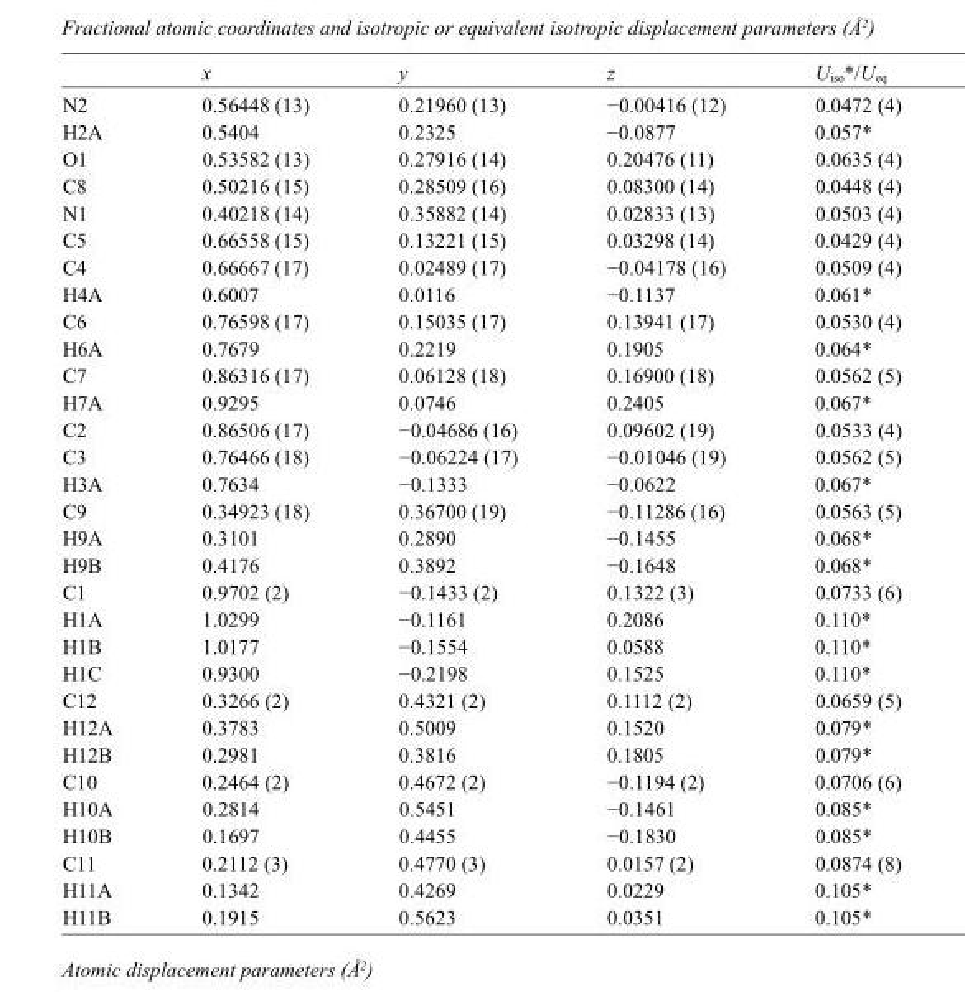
<table><thead><tr><td></td><td>x</td><td>y</td><td>z</td><td>U<sub>iso</sub>*/U<sub>eq</sub></td></tr></thead><tbody><tr><td>N2</td><td>0.56448 (13)</td><td>0.21960 (13)</td><td>−0.00416 (12)</td><td>0.0472 (4)</td></tr><tr><td>H2A</td><td>0.5404</td><td>0.2325</td><td>−0.0877</td><td>0.057*</td></tr><tr><td>O1</td><td>0.53582 (13)</td><td>0.27916 (14)</td><td>0.20476 (11)</td><td>0.0635 (4)</td></tr><tr><td>C8</td><td>0.50216 (15)</td><td>0.28509 (16)</td><td>0.08300 (14)</td><td>0.0448 (4)</td></tr><tr><td>N1</td><td>0.40218 (14)</td><td>0.35882 (14)</td><td>0.02833 (13)</td><td>0.0503 (4)</td></tr><tr><td>C5</td><td>0.66558 (15)</td><td>0.13221 (15)</td><td>0.03298 (14)</td><td>0.0429 (4)</td></tr><tr><td>C4</td><td>0.66667 (17)</td><td>0.02489 (17)</td><td>−0.04178 (16)</td><td>0.0509 (4)</td></tr><tr><td>H4A</td><td>0.6007</td><td>0.0116</td><td>−0.1137</td><td>0.061*</td></tr><tr><td>C6</td><td>0.76598 (17)</td><td>0.15035 (17)</td><td>0.13941 (17)</td><td>0.0530 (4)</td></tr><tr><td>H6A</td><td>0.7679</td><td>0.2219</td><td>0.1905</td><td>0.064*</td></tr><tr><td>C7</td><td>0.86316 (17)</td><td>0.06128 (18)</td><td>0.16900 (18)</td><td>0.0562 (5)</td></tr><tr><td>H7A</td><td>0.9295</td><td>0.0746</td><td>0.2405</td><td>0.067*</td></tr><tr><td>C2</td><td>0.86506 (17)</td><td>−0.04686 (16)</td><td>0.09602 (19)</td><td>0.0533 (4)</td></tr><tr><td>C3</td><td>0.76466 (18)</td><td>−0.06224 (17)</td><td>−0.01046 (19)</td><td>0.0562 (5)</td></tr><tr><td>H3A</td><td>0.7634</td><td>−0.1333</td><td>−0.0622</td><td>0.067*</td></tr><tr><td>C9</td><td>0.34923 (18)</td><td>0.36700 (19)</td><td>−0.11286 (16)</td><td>0.0563 (5)</td></tr><tr><td>H9A</td><td>0.3101</td><td>0.2890</td><td>−0.1455</td><td>0.068*</td></tr><tr><td>H9B</td><td>0.4176</td><td>0.3892</td><td>−0.1648</td><td>0.068*</td></tr><tr><td>C1</td><td>0.9702 (2)</td><td>−0.1433 (2)</td><td>0.1322 (3)</td><td>0.0733 (6)</td></tr><tr><td>H1A</td><td>1.0299</td><td>−0.1161</td><td>0.2086</td><td>0.110*</td></tr><tr><td>H1B</td><td>1.0177</td><td>−0.1554</td><td>0.0588</td><td>0.110*</td></tr><tr><td>H1C</td><td>0.9300</td><td>−0.2198</td><td>0.1525</td><td>0.110*</td></tr><tr><td>C12</td><td>0.3266 (2)</td><td>0.4321 (2)</td><td>0.1112 (2)</td><td>0.0659 (5)</td></tr><tr><td>H12A</td><td>0.3783</td><td>0.5009</td><td>0.1520</td><td>0.079*</td></tr><tr><td>H12B</td><td>0.2981</td><td>0.3816</td><td>0.1805</td><td>0.079*</td></tr><tr><td>C10</td><td>0.2464 (2)</td><td>0.4672 (2)</td><td>−0.1194 (2)</td><td>0.0706 (6)</td></tr><tr><td>H10A</td><td>0.2814</td><td>0.5451</td><td>−0.1461</td><td>0.085*</td></tr><tr><td>H10B</td><td>0.1697</td><td>0.4455</td><td>−0.1830</td><td>0.085*</td></tr><tr><td>C11</td><td>0.2112 (3)</td><td>0.4770 (3)</td><td>0.0157 (2)</td><td>0.0874 (8)</td></tr><tr><td>H11A</td><td>0.1342</td><td>0.4269</td><td>0.0229</td><td>0.105*</td></tr><tr><td>H11B</td><td>0.1915</td><td>0.5623</td><td>0.0351</td><td>0.105*</td></tr></tbody></table>